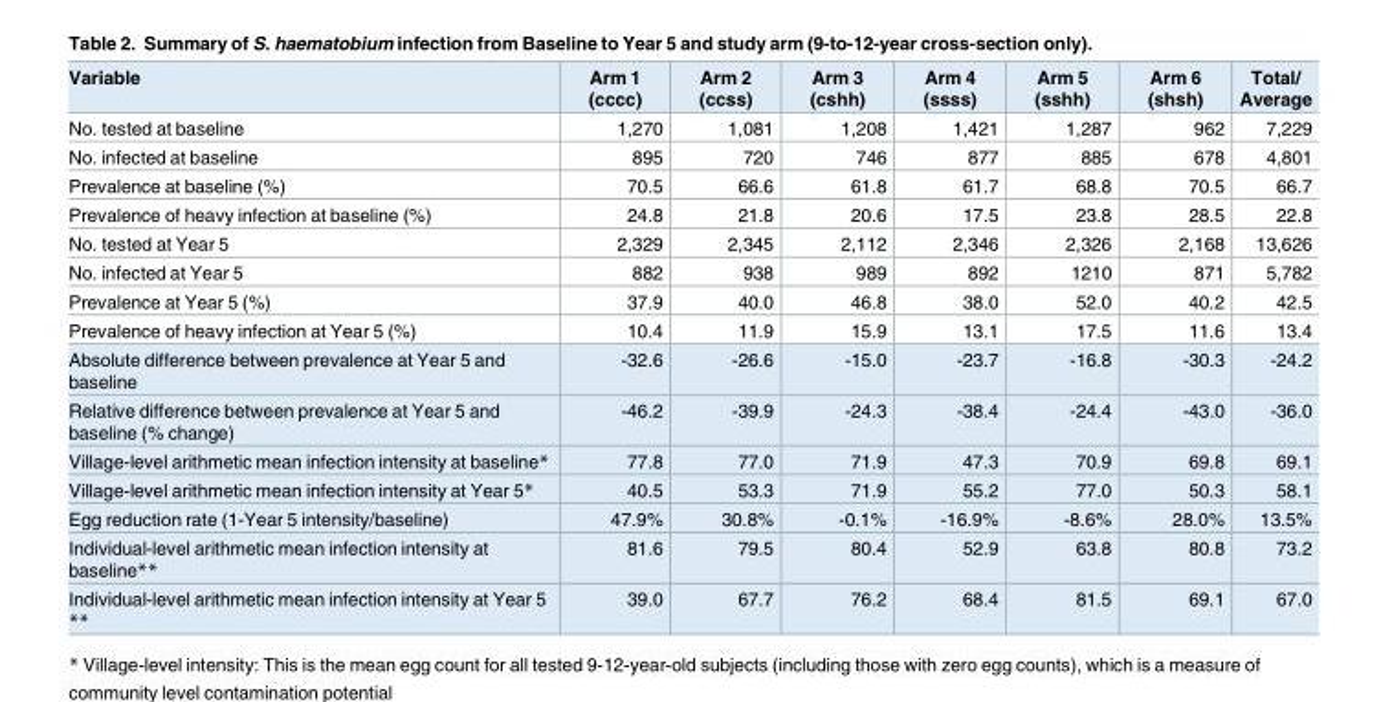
<table><thead><tr><td>Variable</td><td>Arm 1 (cccc)</td><td>Arm 2 (ccss)</td><td>Arm 3 (cshh)</td><td>Arm 4 (ssss)</td><td>Arm 5 (sshh)</td><td>Arm 6 (shsh)</td><td>Total/ Average</td></tr></thead><tbody><tr><td>No. tested at baseline</td><td>1,270</td><td>1,081</td><td>1,208</td><td>1,421</td><td>1,287</td><td>962</td><td>7,229</td></tr><tr><td>No. infected at baseline</td><td>895</td><td>720</td><td>746</td><td>877</td><td>885</td><td>678</td><td>4,801</td></tr><tr><td>Prevalence at baseline (%)</td><td>70.5</td><td>66.6</td><td>61.8</td><td>61.7</td><td>68.8</td><td>70.5</td><td>66.7</td></tr><tr><td>Prevalence of heavy infection at baseline (%)</td><td>24.8</td><td>21.8</td><td>20.6</td><td>17.5</td><td>23.8</td><td>28.5</td><td>22.8</td></tr><tr><td>No. tested at Year 5</td><td>2,329</td><td>2,345</td><td>2,112</td><td>2,346</td><td>2,326</td><td>2,168</td><td>13,626</td></tr><tr><td>No. infected at Year 5</td><td>882</td><td>938</td><td>989</td><td>892</td><td>1210</td><td>871</td><td>5,782</td></tr><tr><td>Prevalence at Year 5 (%)</td><td>37.9</td><td>40.0</td><td>46.8</td><td>38.0</td><td>52.0</td><td>40.2</td><td>42.5</td></tr><tr><td>Prevalence of heavy infection at Year 5 (%)</td><td>10.4</td><td>11.9</td><td>15.9</td><td>13.1</td><td>17.5</td><td>11.6</td><td>13.4</td></tr><tr><td>Absolute difference between prevalence at Year 5 and baseline</td><td>-32.6</td><td>-26.6</td><td>-15.0</td><td>-23.7</td><td>-16.8</td><td>-30.3</td><td>-24.2</td></tr><tr><td>Relative difference between prevalence at Year 5 and baseline (% change)</td><td>-46.2</td><td>-39.9</td><td>-24.3</td><td>-38.4</td><td>-24.4</td><td>-43.0</td><td>-36.0</td></tr><tr><td>Village-level arithmetic mean infection intensity at baseline*</td><td>77.8</td><td>77.0</td><td>71.9</td><td>47.3</td><td>70.9</td><td>69.8</td><td>69.1</td></tr><tr><td>Village-level arithmetic mean infection intensity at Year 5*</td><td>40.5</td><td>53.3</td><td>71.9</td><td>55.2</td><td>77.0</td><td>50.3</td><td>58.1</td></tr><tr><td>Egg reduction rate (1-Year 5 intensity/baseline)</td><td>47.9%</td><td>30.8%</td><td>-0.1%</td><td>-16.9%</td><td>-8.6%</td><td>28.0%</td><td>13.5%</td></tr><tr><td>Individual-level arithmetic mean infection intensity at baseline**</td><td>81.6</td><td>79.5</td><td>80.4</td><td>52.9</td><td>63.8</td><td>80.8</td><td>73.2</td></tr><tr><td>Individual-level arithmetic mean infection intensity at Year 5 **</td><td>39.0</td><td>67.7</td><td>76.2</td><td>68.4</td><td>81.5</td><td>69.1</td><td>67.0</td></tr></tbody></table>